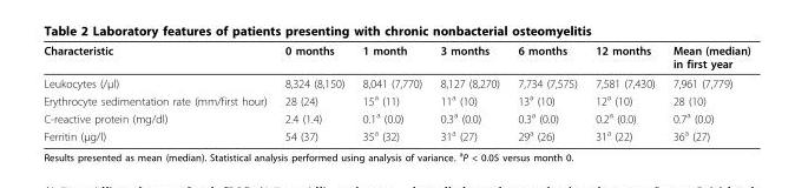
<table><thead><tr><td>Characteristic</td><td>0 months</td><td>1 month</td><td>3 months</td><td>6 months</td><td>12 months</td><td>Mean (median) in first year</td></tr></thead><tbody><tr><td>Leukocytes (/μl)</td><td>8,324 (8,150)</td><td>8,041 (7,770)</td><td>8,127 (8,270)</td><td>7,734 (7,575)</td><td>7,581 (7,430)</td><td>7,961 (7,779)</td></tr><tr><td>Erythrocyte sedimentation rate (mm/first hour)</td><td>28 (24)</td><td>15<sup>a</sup> (11)</td><td>11<sup>a</sup> (10)</td><td>13<sup>a</sup> (10)</td><td>12<sup>a</sup> (10)</td><td>28 (10)</td></tr><tr><td>C-reactive protein (mg/dl)</td><td>2.4 (1.4)</td><td>0.1<sup>a</sup> (0.0)</td><td>0.3<sup>a</sup> (0.0)</td><td>0.3<sup>a</sup> (0.0)</td><td>0.2<sup>a</sup> (0.0)</td><td>0.7<sup>a</sup> (0.0)</td></tr><tr><td>Ferritin (μg/l)</td><td>54 (37)</td><td>35<sup>a</sup> (32)</td><td>31<sup>a</sup> (27)</td><td>29<sup>a</sup> (26)</td><td>31<sup>a</sup> (22)</td><td>36<sup>a</sup> (27)</td></tr></tbody></table>